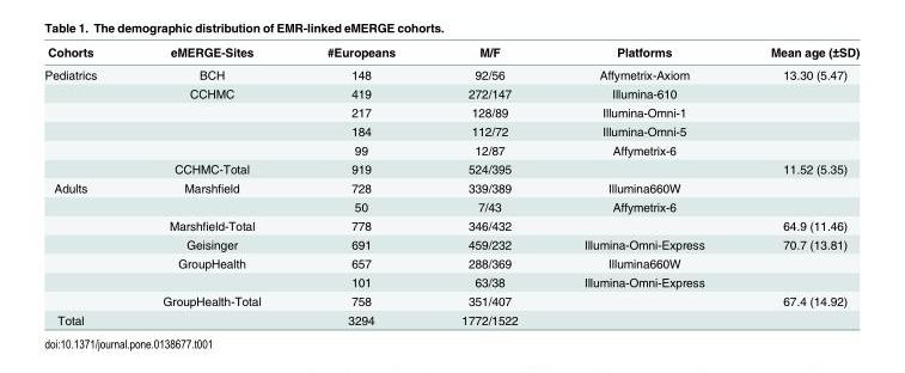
<table><thead><tr><td>Cohorts</td><td>eMERGE-Sites</td><td>#Europeans</td><td>M/F</td><td>Platforms</td><td>Mean age (±SD)</td></tr></thead><tbody><tr><td rowspan="6">Pediatrics</td><td>BCH</td><td>148</td><td>92/56</td><td>Affymetrix-Axiom</td><td>13.30 (5.47)</td></tr><tr><td>CCHMC</td><td>419</td><td>272/147</td><td>Illumina-610</td><td></td></tr><tr><td></td><td>217</td><td>128/89</td><td>Illumina-Omni-1</td><td></td></tr><tr><td></td><td>184</td><td>112/72</td><td>Illumina-Omni-5</td><td></td></tr><tr><td></td><td>99</td><td>12/87</td><td>Affymetrix-6</td><td></td></tr><tr><td>CCHMC-Total</td><td>919</td><td>524/395</td><td></td><td>11.52 (5.35)</td></tr><tr><td rowspan="7">Adults</td><td>Marshfield</td><td>728</td><td>339/389</td><td>Illumina660W</td><td></td></tr><tr><td></td><td>50</td><td>7/43</td><td>Affymetrix-6</td><td></td></tr><tr><td>Marshfield-Total</td><td>778</td><td>346/432</td><td></td><td>64.9 (11.46)</td></tr><tr><td>Geisinger</td><td>691</td><td>459/232</td><td>Illumina-Omni-Express</td><td>70.7 (13.81)</td></tr><tr><td>GroupHealth</td><td>657</td><td>288/369</td><td>Illumina660W</td><td></td></tr><tr><td></td><td>101</td><td>63/38</td><td>Illumina-Omni-Express</td><td></td></tr><tr><td>GroupHealth-Total</td><td>758</td><td>351/407</td><td></td><td>67.4 (14.92)</td></tr><tr><td>Total</td><td></td><td>3294</td><td>1772/1522</td><td></td><td></td></tr></tbody></table>